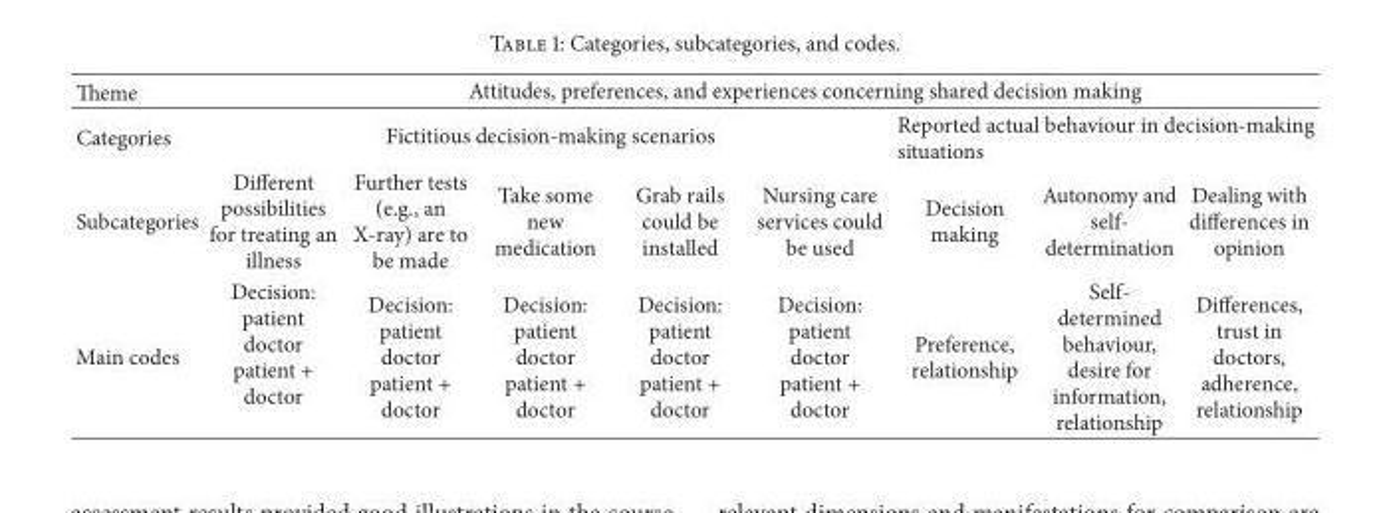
<table><thead><tr><td rowspan="3">Theme Categories Subcategories</td><td colspan="8">Attitudes, preferences, and experiences concerning shared decision making</td></tr><tr><td colspan="5">Fictitious decision-making scenarios</td><td colspan="3">Reported actual behaviour in decision-making situations</td></tr><tr><td>Different possibilities for treating an illness</td><td>Further tests (e.g., an X-ray) are to be made</td><td>Take some new medication</td><td>Grab rails could be installed</td><td>Nursing care services could be used</td><td>Decision making</td><td>Autonomy and self- determination</td><td>Dealing with differences in opinion</td></tr></thead><tbody><tr><td>Main codes</td><td>Decision: patient doctor patient + doctor</td><td>Decision: patient doctor patient + doctor</td><td>Decision: patient doctor patient + doctor</td><td>Decision: patient doctor patient + doctor</td><td>Decision: patient doctor patient + doctor</td><td>Preference, relationship</td><td>Self- determined behaviour, desire for information, relationship</td><td>Differences, trust in doctors, adherence, relationship</td></tr></tbody></table>